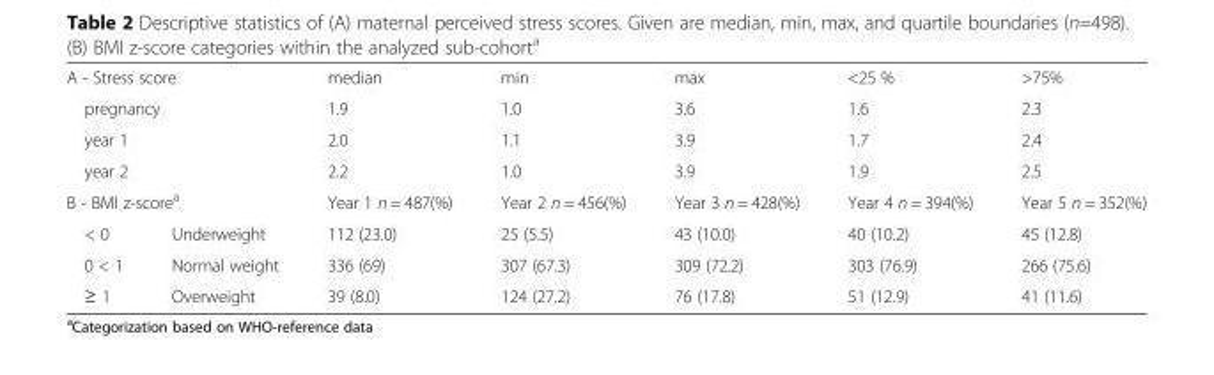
<table><tbody><tr><td colspan="2">A - Stress score</td><td>median</td><td>min</td><td>max</td><td>&lt;25 %</td><td>&gt;75%</td></tr><tr><td colspan="2">pregnancy</td><td>1.9</td><td>1.0</td><td>3.6</td><td>1.6</td><td>2.3</td></tr><tr><td colspan="2">year 1</td><td>2.0</td><td>1.1</td><td>3.9</td><td>1.7</td><td>2.4</td></tr><tr><td colspan="2">year 2</td><td>2.2</td><td>1.0</td><td>3.9</td><td>1.9</td><td>2.5</td></tr><tr><td colspan="2">B - BMI z-score<sup>a</sup></td><td>Year 1 n = 487(%)</td><td>Year 2 n = 456(%)</td><td>Year 3 n = 428(%)</td><td>Year 4 n = 394(%)</td><td>Year 5 n = 352(%)</td></tr><tr><td>&lt; 0</td><td>Underweight</td><td>112 (23.0)</td><td>25 (5.5)</td><td>43 (10.0)</td><td>40 (10.2)</td><td>45 (12.8)</td></tr><tr><td>0 &lt; 1</td><td>Normal weight</td><td>336 (69)</td><td>307 (67.3)</td><td>309 (72.2)</td><td>303 (76.9)</td><td>266 (75.6)</td></tr><tr><td>≥ 1</td><td>Overweight</td><td>39 (8.0)</td><td>124 (27.2)</td><td>76 (17.8)</td><td>51 (12.9)</td><td>41 (11.6)</td></tr></tbody></table>